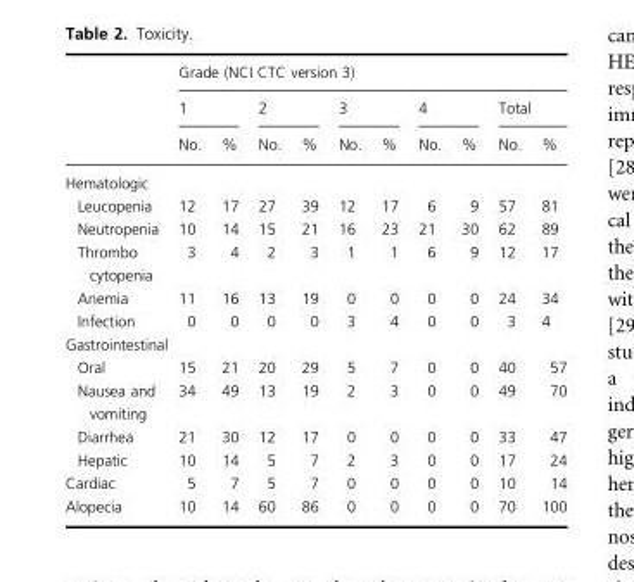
<table><thead><tr><td rowspan="3"></td><td colspan="10">Grade (NCI CTC version 3)</td></tr><tr><td colspan="2">1</td><td colspan="2">2</td><td colspan="2">3</td><td colspan="2">4</td><td colspan="2">Total</td></tr><tr><td>No.</td><td>%</td><td>No.</td><td>%</td><td>No.</td><td>%</td><td>No.</td><td>%</td><td>No.</td><td>%</td></tr></thead><tbody><tr><td colspan="11">Hematologic</td></tr><tr><td>Leucopenia</td><td>12</td><td>17</td><td>27</td><td>39</td><td>12</td><td>17</td><td>6</td><td>9</td><td>57</td><td>81</td></tr><tr><td>Neutropenia</td><td>10</td><td>14</td><td>15</td><td>21</td><td>16</td><td>23</td><td>21</td><td>30</td><td>62</td><td>89</td></tr><tr><td>Thrombo cytopenia</td><td>3</td><td>4</td><td>2</td><td>3</td><td>1</td><td>1</td><td>6</td><td>9</td><td>12</td><td>17</td></tr><tr><td>Anemia</td><td>11</td><td>16</td><td>13</td><td>19</td><td>0</td><td>0</td><td>0</td><td>0</td><td>24</td><td>34</td></tr><tr><td>Infection</td><td>0</td><td>0</td><td>0</td><td>0</td><td>3</td><td>4</td><td>0</td><td>0</td><td>3</td><td>4</td></tr><tr><td colspan="11">Gastrointestinal</td></tr><tr><td>Oral</td><td>15</td><td>21</td><td>20</td><td>29</td><td>5</td><td>7</td><td>0</td><td>0</td><td>40</td><td>57</td></tr><tr><td>Nausea and vomiting</td><td>34</td><td>49</td><td>13</td><td>19</td><td>2</td><td>3</td><td>0</td><td>0</td><td>49</td><td>70</td></tr><tr><td>Diarrhea</td><td>21</td><td>30</td><td>12</td><td>17</td><td>0</td><td>0</td><td>0</td><td>0</td><td>33</td><td>47</td></tr><tr><td>Hepatic</td><td>10</td><td>14</td><td>5</td><td>7</td><td>2</td><td>3</td><td>0</td><td>0</td><td>17</td><td>24</td></tr><tr><td>Cardiac</td><td>5</td><td>7</td><td>5</td><td>7</td><td>0</td><td>0</td><td>0</td><td>0</td><td>10</td><td>14</td></tr><tr><td>Alopecia</td><td>10</td><td>14</td><td>60</td><td>86</td><td>0</td><td>0</td><td>0</td><td>0</td><td>70</td><td>100</td></tr></tbody></table>